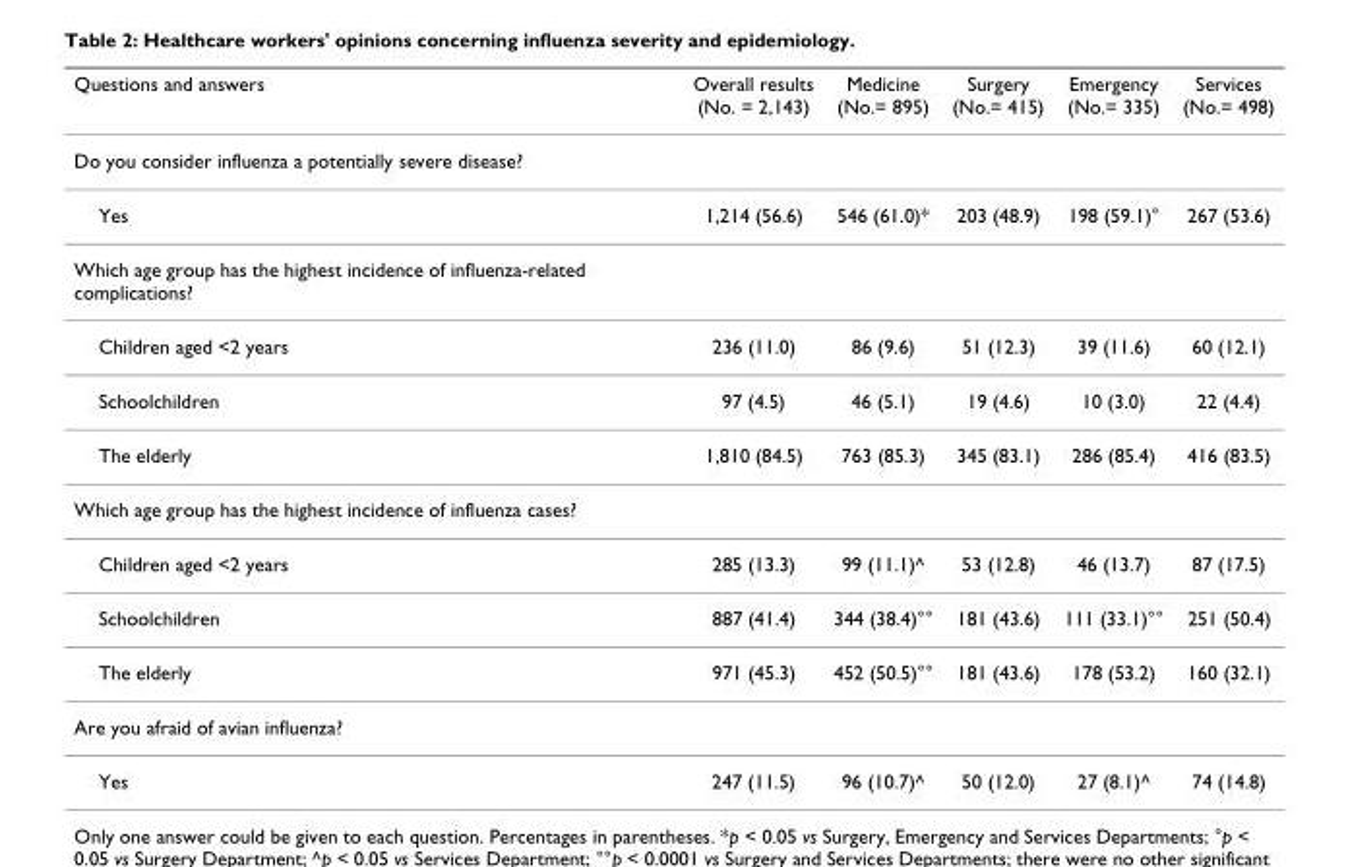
<table><thead><tr><td>Questions and answers</td><td>Overall results (No. = 2,143)</td><td>Medicine (No.= 895)</td><td>Surgery (No.= 415)</td><td>Emergency (No.= 335)</td><td>Services (No.= 498)</td></tr></thead><tbody><tr><td colspan="6">Do you consider influenza a potentially severe disease?</td></tr><tr><td>Yes</td><td>1,214 (56.6)</td><td>546 (61.0)*</td><td>203 (48.9)</td><td>198 (59.1)°</td><td>267 (53.6)</td></tr><tr><td colspan="6">Which age group has the highest incidence of influenza-related complications?</td></tr><tr><td>Children aged &lt;2 years</td><td>236 (11.0)</td><td>86 (9.6)</td><td>51 (12.3)</td><td>39 (11.6)</td><td>60 (12.1)</td></tr><tr><td>Schoolchildren</td><td>97 (4.5)</td><td>46 (5.1)</td><td>19 (4.6)</td><td>10 (3.0)</td><td>22 (4.4)</td></tr><tr><td>The elderly</td><td>1,810 (84.5)</td><td>763 (85.3)</td><td>345 (83.1)</td><td>286 (85.4)</td><td>416 (83.5)</td></tr><tr><td colspan="6">Which age group has the highest incidence of influenza cases?</td></tr><tr><td>Children aged &lt;2 years</td><td>285 (13.3)</td><td>99 (11.1)^</td><td>53 (12.8)</td><td>46 (13.7)</td><td>87 (17.5)</td></tr><tr><td>Schoolchildren</td><td>887 (41.4)</td><td>344 (38.4)°°</td><td>181 (43.6)</td><td>111 (33.1)°°</td><td>251 (50.4)</td></tr><tr><td>The elderly</td><td>971 (45.3)</td><td>452 (50.5)°°</td><td>181 (43.6)</td><td>178 (53.2)</td><td>160 (32.1)</td></tr><tr><td colspan="6">Are you afraid of avian influenza?</td></tr><tr><td>Yes</td><td>247 (11.5)</td><td>96 (10.7)^</td><td>50 (12.0)</td><td>27 (8.1)^</td><td>74 (14.8)</td></tr></tbody></table>